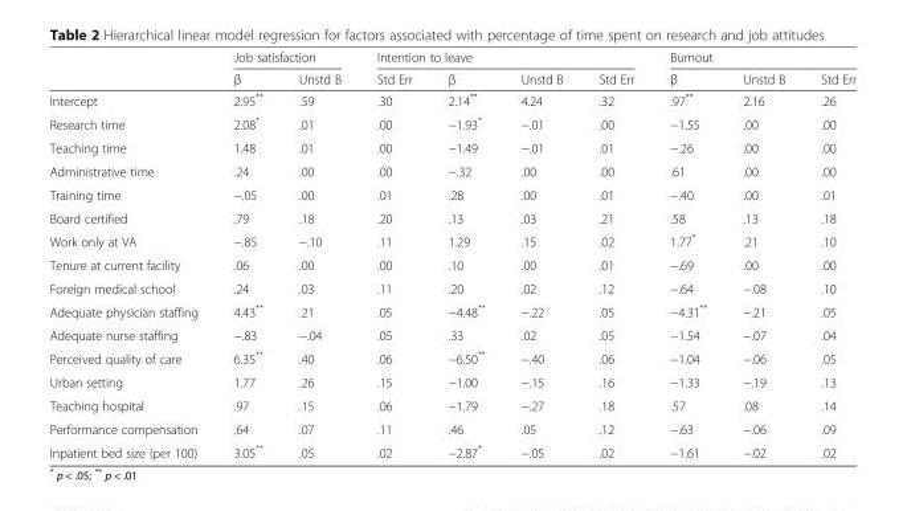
<table><thead><tr><td rowspan="2"></td><td colspan="2">Job satisfaction</td><td colspan="4">Intention to leave</td><td colspan="3">Burnout</td></tr><tr><td>β</td><td>Unstd B</td><td>Std Err</td><td>β</td><td>Unstd B</td><td>Std Err</td><td>β</td><td>Unstd B</td><td>Std Err</td></tr></thead><tbody><tr><td>Intercept</td><td>2.95**</td><td>.59</td><td>.30</td><td>2.14**</td><td>4.24</td><td>.32</td><td>.97**</td><td>2.16</td><td>.26</td></tr><tr><td>Research time</td><td>2.08*</td><td>.01</td><td>.00</td><td>−1.93*</td><td>−.01</td><td>.00</td><td>−1.55</td><td>.00</td><td>.00</td></tr><tr><td>Teaching time</td><td>1.48</td><td>.01</td><td>.00</td><td>−1.49</td><td>−.01</td><td>.01</td><td>−.26</td><td>.00</td><td>.00</td></tr><tr><td>Administrative time</td><td>.24</td><td>.00</td><td>.00</td><td>−.32</td><td>.00</td><td>.00</td><td>.61</td><td>.00</td><td>.00</td></tr><tr><td>Training time</td><td>−.05</td><td>.00</td><td>.01</td><td>.28</td><td>.00</td><td>.01</td><td>−.40</td><td>.00</td><td>.01</td></tr><tr><td>Board certified</td><td>.79</td><td>.18</td><td>.20</td><td>.13</td><td>.03</td><td>.21</td><td>.58</td><td>.13</td><td>.18</td></tr><tr><td>Work only at VA</td><td>−.85</td><td>−.10</td><td>.11</td><td>1.29</td><td>.15</td><td>.02</td><td>1.77*</td><td>.21</td><td>.10</td></tr><tr><td>Tenure at current facility</td><td>.06</td><td>.00</td><td>.00</td><td>.10</td><td>.00</td><td>.01</td><td>−.69</td><td>.00</td><td>.00</td></tr><tr><td>Foreign medical school</td><td>.24</td><td>.03</td><td>.11</td><td>.20</td><td>.02</td><td>.12</td><td>−.64</td><td>−.08</td><td>.10</td></tr><tr><td>Adequate physician staffing</td><td>4.43**</td><td>.21</td><td>.05</td><td>−4.48**</td><td>−.22</td><td>.05</td><td>−4.31**</td><td>−.21</td><td>.05</td></tr><tr><td>Adequate nurse staffing</td><td>−.83</td><td>−.04</td><td>.05</td><td>.33</td><td>.02</td><td>.05</td><td>−1.54</td><td>−.07</td><td>.04</td></tr><tr><td>Perceived quality of care</td><td>6.35**</td><td>.40</td><td>.06</td><td>−6.50**</td><td>−.40</td><td>.06</td><td>−1.04</td><td>−.06</td><td>.05</td></tr><tr><td>Urban setting</td><td>1.77</td><td>.26</td><td>.15</td><td>−1.00</td><td>−.15</td><td>.16</td><td>−1.33</td><td>−.19</td><td>.13</td></tr><tr><td>Teaching hospital</td><td>.97</td><td>.15</td><td>.06</td><td>−1.79</td><td>−.27</td><td>.18</td><td>.57</td><td>.08</td><td>.14</td></tr><tr><td>Performance compensation</td><td>.64</td><td>.07</td><td>.11</td><td>.46</td><td>.05</td><td>.12</td><td>−.63</td><td>−.06</td><td>.09</td></tr><tr><td>Inpatient bed size (per 100)</td><td>3.05**</td><td>.05</td><td>.02</td><td>−2.87*</td><td>−.05</td><td>.02</td><td>−1.61</td><td>−.02</td><td>.02</td></tr></tbody></table>